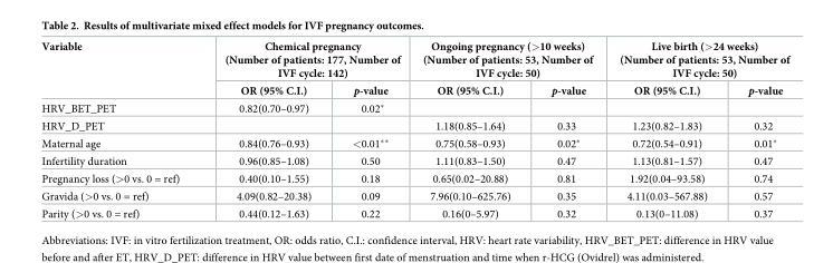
<table><thead><tr><td rowspan="2">Variable</td><td colspan="2">Chemical pregnancy (Number of patients: 177, Number of IVF cycle: 142)</td><td colspan="2">Ongoing pregnancy (&gt;10 weeks) (Number of patients: 53, Number of IVF cycle: 50)</td><td colspan="2">Live birth (&gt;24 weeks) (Number of patients: 53, Number of IVF cycle: 50)</td></tr><tr><td>OR (95% C.I.)</td><td>p-value</td><td>OR (95% C.I.)</td><td>p-value</td><td>OR (95% C.I.)</td><td>p-value</td></tr></thead><tbody><tr><td>HRV_BET_PET</td><td>0.82(0.70–0.97)</td><td>0.02*</td><td></td><td></td><td></td><td></td></tr><tr><td>HRV_D_PET</td><td></td><td></td><td>1.18(0.85–1.64)</td><td>0.33</td><td>1.23(0.82–1.83)</td><td>0.32</td></tr><tr><td>Maternal age</td><td>0.84(0.76–0.93)</td><td>&lt;0.01**</td><td>0.75(0.58–0.93)</td><td>0.02*</td><td>0.72(0.54–0.91)</td><td>0.01*</td></tr><tr><td>Infertility duration</td><td>0.96(0.85–1.08)</td><td>0.50</td><td>1.11(0.83–1.50)</td><td>0.47</td><td>1.13(0.81–1.57)</td><td>0.47</td></tr><tr><td>Pregnancy loss (&gt;0 vs. 0 = ref)</td><td>0.40(0.10–1.55)</td><td>0.18</td><td>0.65(0.02–20.88)</td><td>0.81</td><td>1.92(0.04–93.58)</td><td>0.74</td></tr><tr><td>Gravida (&gt;0 vs. 0 = ref)</td><td>4.09(0.82–20.38)</td><td>0.09</td><td>7.96(0.10–625.76)</td><td>0.35</td><td>4.11(0.03–567.88)</td><td>0.57</td></tr><tr><td>Parity (&gt;0 vs. 0 = ref)</td><td>0.44(0.12–1.63)</td><td>0.22</td><td>0.16(0–5.97)</td><td>0.32</td><td>0.13(0–11.08)</td><td>0.37</td></tr></tbody></table>